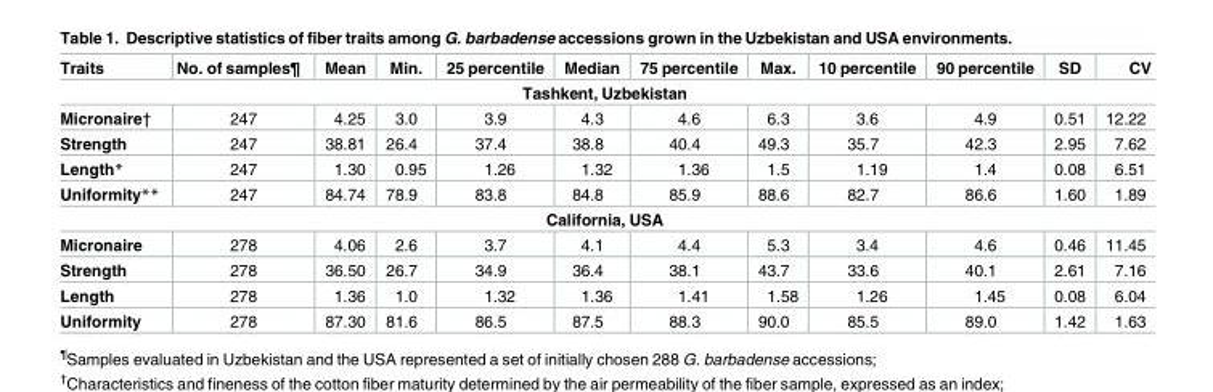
<table><thead><tr><td>Traits</td><td>No. of samples¶</td><td>Mean</td><td>Min.</td><td>25 percentile</td><td>Median</td><td>75 percentile</td><td>Max.</td><td>10 percentile</td><td>90 percentile</td><td>SD</td><td>CV</td></tr></thead><tbody><tr><td colspan="12">Tashkent, Uzbekistan</td></tr><tr><td>Micronaire†</td><td>247</td><td>4.25</td><td>3.0</td><td>3.9</td><td>4.3</td><td>4.6</td><td>6.3</td><td>3.6</td><td>4.9</td><td>0.51</td><td>12.22</td></tr><tr><td>Strength</td><td>247</td><td>38.81</td><td>26.4</td><td>37.4</td><td>38.8</td><td>40.4</td><td>49.3</td><td>35.7</td><td>42.3</td><td>2.95</td><td>7.62</td></tr><tr><td>Length*</td><td>247</td><td>1.30</td><td>0.95</td><td>1.26</td><td>1.32</td><td>1.36</td><td>1.5</td><td>1.19</td><td>1.4</td><td>0.08</td><td>6.51</td></tr><tr><td>Uniformity**</td><td>247</td><td>84.74</td><td>78.9</td><td>83.8</td><td>84.8</td><td>85.9</td><td>88.6</td><td>82.7</td><td>86.6</td><td>1.60</td><td>1.89</td></tr><tr><td colspan="12">California, USA</td></tr><tr><td>Micronaire</td><td>278</td><td>4.06</td><td>2.6</td><td>3.7</td><td>4.1</td><td>4.4</td><td>5.3</td><td>3.4</td><td>4.6</td><td>0.46</td><td>11.45</td></tr><tr><td>Strength</td><td>278</td><td>36.50</td><td>26.7</td><td>34.9</td><td>36.4</td><td>38.1</td><td>43.7</td><td>33.6</td><td>40.1</td><td>2.61</td><td>7.16</td></tr><tr><td>Length</td><td>278</td><td>1.36</td><td>1.0</td><td>1.32</td><td>1.36</td><td>1.41</td><td>1.58</td><td>1.26</td><td>1.45</td><td>0.08</td><td>6.04</td></tr><tr><td>Uniformity</td><td>278</td><td>87.30</td><td>81.6</td><td>86.5</td><td>87.5</td><td>88.3</td><td>90.0</td><td>85.5</td><td>89.0</td><td>1.42</td><td>1.63</td></tr></tbody></table>